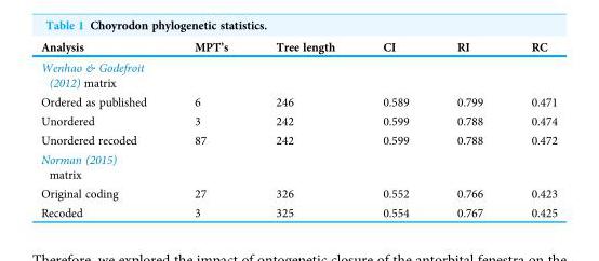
<table><thead><tr><td>Analysis</td><td>MPT’s</td><td>Tree length</td><td>CI</td><td>RI</td><td>RC</td></tr></thead><tbody><tr><td colspan="6">Wenhao &amp; Godefroit (2012) matrix</td></tr><tr><td>Ordered as published</td><td>6</td><td>246</td><td>0.589</td><td>0.799</td><td>0.471</td></tr><tr><td>Unordered</td><td>3</td><td>242</td><td>0.599</td><td>0.788</td><td>0.474</td></tr><tr><td>Unordered recoded</td><td>87</td><td>242</td><td>0.599</td><td>0.788</td><td>0.472</td></tr><tr><td colspan="6">Norman (2015) matrix</td></tr><tr><td>Original coding</td><td>27</td><td>326</td><td>0.552</td><td>0.766</td><td>0.423</td></tr><tr><td>Recoded</td><td>3</td><td>325</td><td>0.554</td><td>0.767</td><td>0.425</td></tr></tbody></table>